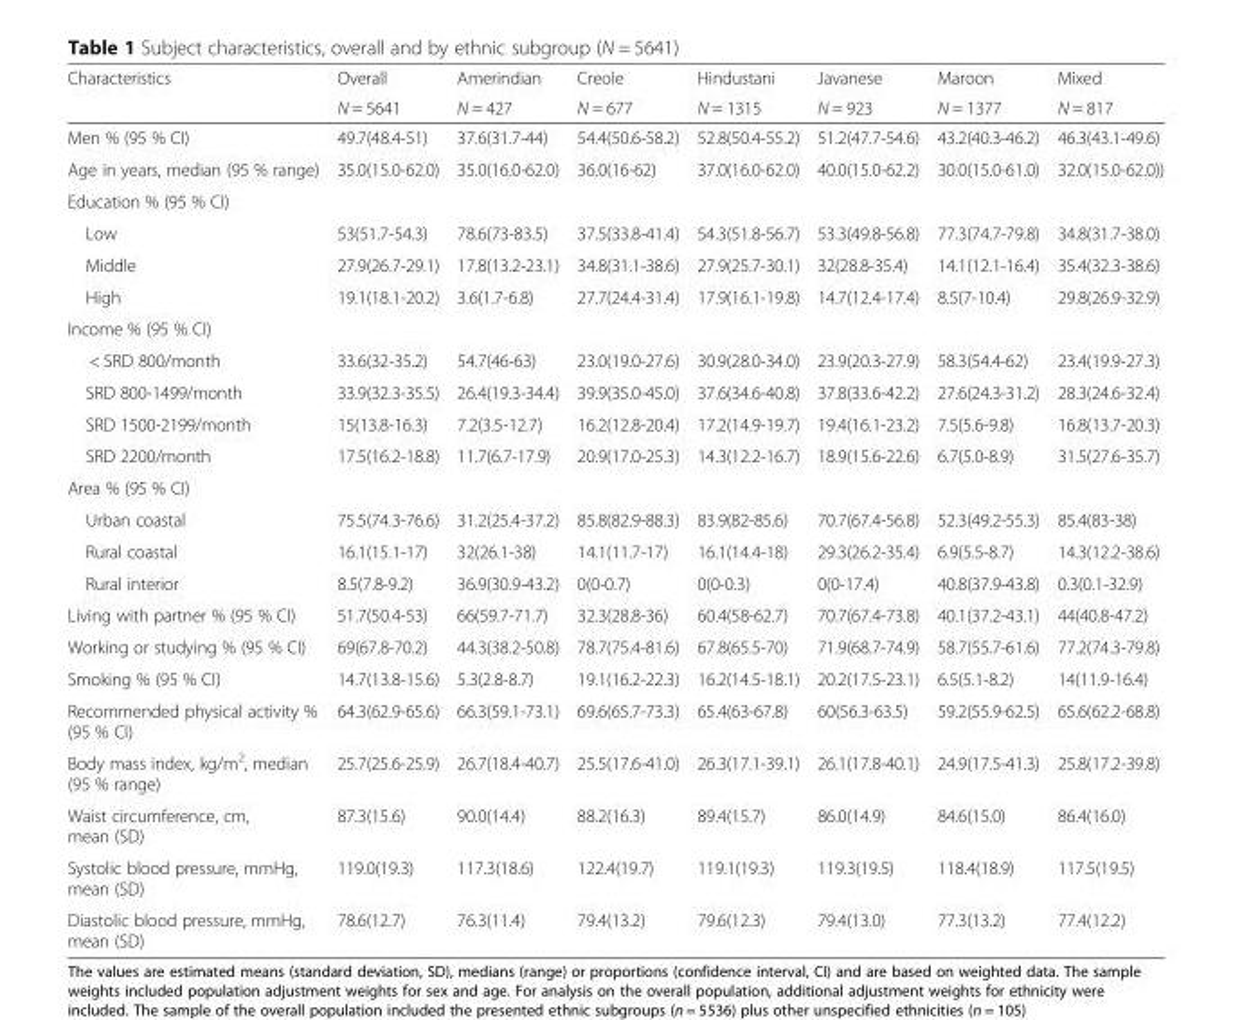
<table><thead><tr><td rowspan="2">Characteristics</td><td rowspan="2">Overall N = 5641</td><td rowspan="2">Amerindian N = 427</td><td rowspan="2">Creole N = 677</td><td rowspan="2">Hindustani N = 1315</td><td rowspan="2">Javanese N = 923</td><td rowspan="2">Maroon N = 1377</td><td rowspan="2">Mixed N = 817</td></tr><tr></tr></thead><tbody><tr><td>Men % (95 % CI)</td><td>49.7(48.4-51)</td><td>37.6(31.7-44)</td><td>54.4(50.6-58.2)</td><td>52.8(50.4-55.2)</td><td>51.2(47.7-54.6)</td><td>43.2(40.3-46.2)</td><td>46.3(43.1-49.6)</td></tr><tr><td>Age in years, median (95 % range)</td><td>35.0(15.0-62.0)</td><td>35.0(16.0-62.0)</td><td>36.0(16-62)</td><td>37.0(16.0-62.0)</td><td>40.0(15.0-62.2)</td><td>30.0(15.0-61.0)</td><td>32.0(15.0-62.0))</td></tr><tr><td colspan="8">Education % (95 % CI)</td></tr><tr><td>Low</td><td>53(51.7-54.3)</td><td>78.6(73-83.5)</td><td>37.5(33.8-41.4)</td><td>54.3(51.8-56.7)</td><td>53.3(49.8-56.8)</td><td>77.3(74.7-79.8)</td><td>34.8(31.7-38.0)</td></tr><tr><td>Middle</td><td>27.9(26.7-29.1)</td><td>17.8(13.2-23.1)</td><td>34.8(31.1-38.6)</td><td>27.9(25.7-30.1)</td><td>32(28.8-35.4)</td><td>14.1(12.1-16.4)</td><td>35.4(32.3-38.6)</td></tr><tr><td>High</td><td>19.1(18.1-20.2)</td><td>3.6(1.7-6.8)</td><td>27.7(24.4-31.4)</td><td>17.9(16.1-19.8)</td><td>14.7(12.4-17.4)</td><td>8.5(7-10.4)</td><td>29.8(26.9-32.9)</td></tr><tr><td colspan="8">Income % (95 % CI)</td></tr><tr><td>&lt; SRD 800/month</td><td>33.6(32-35.2)</td><td>54.7(46-63)</td><td>23.0(19.0-27.6)</td><td>30.9(28.0-34.0)</td><td>23.9(20.3-27.9)</td><td>58.3(54.4-62)</td><td>23.4(19.9-27.3)</td></tr><tr><td>SRD 800-1499/month</td><td>33.9(32.3-35.5)</td><td>26.4(19.3-34.4)</td><td>39.9(35.0-45.0)</td><td>37.6(34.6-40.8)</td><td>37.8(33.6-42.2)</td><td>27.6(24.3-31.2)</td><td>28.3(24.6-32.4)</td></tr><tr><td>SRD 1500-2199/month</td><td>15(13.8-16.3)</td><td>7.2(3.5-12.7)</td><td>16.2(12.8-20.4)</td><td>17.2(14.9-19.7)</td><td>19.4(16.1-23.2)</td><td>7.5(5.6-9.8)</td><td>16.8(13.7-20.3)</td></tr><tr><td>SRD 2200/month</td><td>17.5(16.2-18.8)</td><td>11.7(6.7-17.9)</td><td>20.9(17.0-25.3)</td><td>14.3(12.2-16.7)</td><td>18.9(15.6-22.6)</td><td>6.7(5.0-8.9)</td><td>31.5(27.6-35.7)</td></tr><tr><td colspan="8">Area % (95 % CI)</td></tr><tr><td>Urban coastal</td><td>75.5(74.3-76.6)</td><td>31.2(25.4-37.2)</td><td>85.8(82.9-88.3)</td><td>83.9(82-85.6)</td><td>70.7(67.4-56.8)</td><td>52.3(49.2-55.3)</td><td>85.4(83-38)</td></tr><tr><td>Rural coastal</td><td>16.1(15.1-17)</td><td>32(26.1-38)</td><td>14.1(11.7-17)</td><td>16.1(14.4-18)</td><td>29.3(26.2-35.4)</td><td>6.9(5.5-8.7)</td><td>14.3(12.2-38.6)</td></tr><tr><td>Rural interior</td><td>8.5(7.8-9.2)</td><td>36.9(30.9-43.2)</td><td>0(0-0.7)</td><td>0(0-0.3)</td><td>0(0-17.4)</td><td>40.8(37.9-43.8)</td><td>0.3(0.1-32.9)</td></tr><tr><td>Living with partner % (95 % CI)</td><td>51.7(50.4-53)</td><td>66(59.7-71.7)</td><td>32.3(28.8-36)</td><td>60.4(58-62.7)</td><td>70.7(67.4-73.8)</td><td>40.1(37.2-43.1)</td><td>44(40.8-47.2)</td></tr><tr><td>Working or studying % (95 % CI)</td><td>69(67.8-70.2)</td><td>44.3(38.2-50.8)</td><td>78.7(75.4-81.6)</td><td>67.8(65.5-70)</td><td>71.9(68.7-74.9)</td><td>58.7(55.7-61.6)</td><td>77.2(74.3-79.8)</td></tr><tr><td>Smoking % (95 % CI)</td><td>14.7(13.8-15.6)</td><td>5.3(2.8-8.7)</td><td>19.1(16.2-22.3)</td><td>16.2(14.5-18.1)</td><td>20.2(17.5-23.1)</td><td>6.5(5.1-8.2)</td><td>14(11.9-16.4)</td></tr><tr><td>Recommended physical activity % (95 % CI)</td><td>64.3(62.9-65.6)</td><td>66.3(59.1-73.1)</td><td>69.6(65.7-73.3)</td><td>65.4(63-67.8)</td><td>60(56.3-63.5)</td><td>59.2(55.9-62.5)</td><td>65.6(62.2-68.8)</td></tr><tr><td>Body mass index, kg/m<sup>2</sup>, median (95 % range)</td><td>25.7(25.6-25.9)</td><td>26.7(18.4-40.7)</td><td>25.5(17.6-41.0)</td><td>26.3(17.1-39.1)</td><td>26.1(17.8-40.1)</td><td>24.9(17.5-41.3)</td><td>25.8(17.2-39.8)</td></tr><tr><td>Waist circumference, cm, mean (SD)</td><td>87.3(15.6)</td><td>90.0(14.4)</td><td>88.2(16.3)</td><td>89.4(15.7)</td><td>86.0(14.9)</td><td>84.6(15.0)</td><td>86.4(16.0)</td></tr><tr><td>Systolic blood pressure, mmHg, mean (SD)</td><td>119.0(19.3)</td><td>117.3(18.6)</td><td>122.4(19.7)</td><td>119.1(19.3)</td><td>119.3(19.5)</td><td>118.4(18.9)</td><td>117.5(19.5)</td></tr><tr><td>Diastolic blood pressure, mmHg, mean (SD)</td><td>78.6(12.7)</td><td>76.3(11.4)</td><td>79.4(13.2)</td><td>79.6(12.3)</td><td>79.4(13.0)</td><td>77.3(13.2)</td><td>77.4(12.2)</td></tr></tbody></table>